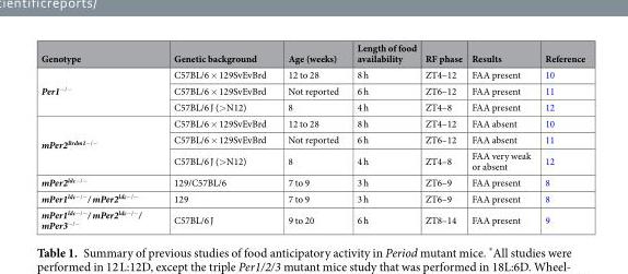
<table><thead><tr><td>Genotype</td><td>Genetic background</td><td>Age (weeks)</td><td>Length of food availability</td><td>RF phase</td><td>Results</td><td>Reference</td></tr></thead><tbody><tr><td rowspan="3">Per1<sup>−/−</sup></td><td>C57BL/6 × 129SvEvBrd</td><td>12 to 28</td><td>8 h</td><td>ZT4–12</td><td>FAA present</td><td>10</td></tr><tr><td>C57BL/6 × 129SvEvBrd</td><td>Not reported</td><td>6 h</td><td>ZT6–12</td><td>FAA present</td><td>11</td></tr><tr><td>C57BL/6 J (&gt;N12)</td><td>8</td><td>4 h</td><td>ZT4–8</td><td>FAA present</td><td>12</td></tr><tr><td rowspan="3">mPer2<sup>Brdm1−/−</sup></td><td>C57BL/6 × 129SvEvBrd</td><td>12 to 28</td><td>8 h</td><td>ZT4–12</td><td>FAA absent</td><td>10</td></tr><tr><td>C57BL/6 × 129SvEvBrd</td><td>Not reported</td><td>6 h</td><td>ZT6–12</td><td>FAA absent</td><td>11</td></tr><tr><td>C57BL/6 J (&gt;N12)</td><td>8</td><td>4 h</td><td>ZT4–8</td><td>FAA very weak or absent</td><td>12</td></tr><tr><td>mPer2<sup>ldc−/−</sup></td><td>129/C57BL/6</td><td>7 to 9</td><td>3 h</td><td>ZT6–9</td><td>FAA present</td><td>8</td></tr><tr><td>mPer1<sup>ldc−/−</sup>/ mPer2<sup>ldc−/−</sup></td><td>129</td><td>7 to 9</td><td>3 h</td><td>ZT6–9</td><td>FAA present</td><td>8</td></tr><tr><td>mPer1<sup>ldc−/−</sup>/ mPer2<sup>ldc−/−</sup>/ mPer3<sup>−/−</sup></td><td>C57BL/6 J</td><td>9 to 20</td><td>6 h</td><td>ZT8–14</td><td>FAA present</td><td>9</td></tr></tbody></table>